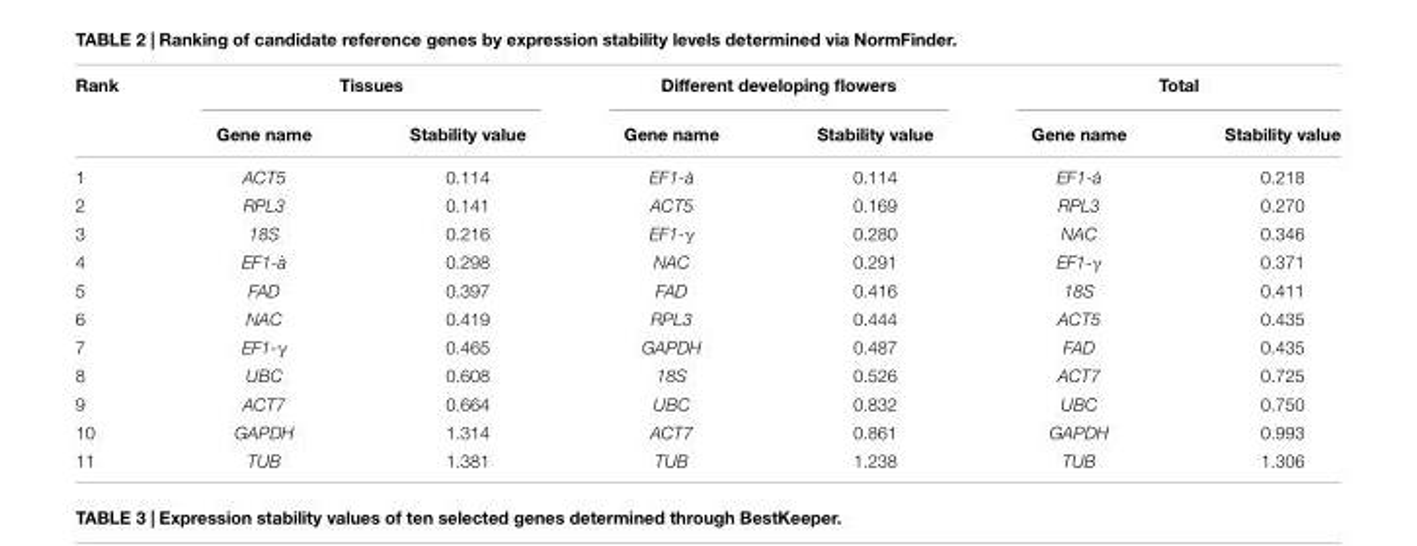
<table><thead><tr><td rowspan="2">Rank</td><td colspan="2">Tissues</td><td colspan="2">Different developing flowers</td><td colspan="2">Total</td></tr><tr><td>Gene name</td><td>Stability value</td><td>Gene name</td><td>Stability value</td><td>Gene name</td><td>Stability value</td></tr></thead><tbody><tr><td>1</td><td>ACT5</td><td>0.114</td><td>EF1-à</td><td>0.114</td><td>EF1-à</td><td>0.218</td></tr><tr><td>2</td><td>RPL3</td><td>0.141</td><td>ACT5</td><td>0.169</td><td>RPL3</td><td>0.270</td></tr><tr><td>3</td><td>18S</td><td>0.216</td><td>EF1-γ</td><td>0.280</td><td>NAC</td><td>0.346</td></tr><tr><td>4</td><td>EF1-à</td><td>0.298</td><td>NAC</td><td>0.291</td><td>EF1-γ</td><td>0.371</td></tr><tr><td>5</td><td>FAD</td><td>0.397</td><td>FAD</td><td>0.416</td><td>18S</td><td>0.411</td></tr><tr><td>6</td><td>NAC</td><td>0.419</td><td>RPL3</td><td>0.444</td><td>ACT5</td><td>0.435</td></tr><tr><td>7</td><td>EF1-γ</td><td>0.465</td><td>GAPDH</td><td>0.487</td><td>FAD</td><td>0.435</td></tr><tr><td>8</td><td>UBC</td><td>0.608</td><td>18S</td><td>0.526</td><td>ACT7</td><td>0.725</td></tr><tr><td>9</td><td>ACT7</td><td>0.664</td><td>UBC</td><td>0.832</td><td>UBC</td><td>0.750</td></tr><tr><td>10</td><td>GAPDH</td><td>1.314</td><td>ACT7</td><td>0.861</td><td>GAPDH</td><td>0.993</td></tr><tr><td>11</td><td>TUB</td><td>1.381</td><td>TUB</td><td>1.238</td><td>TUB</td><td>1.306</td></tr></tbody></table>